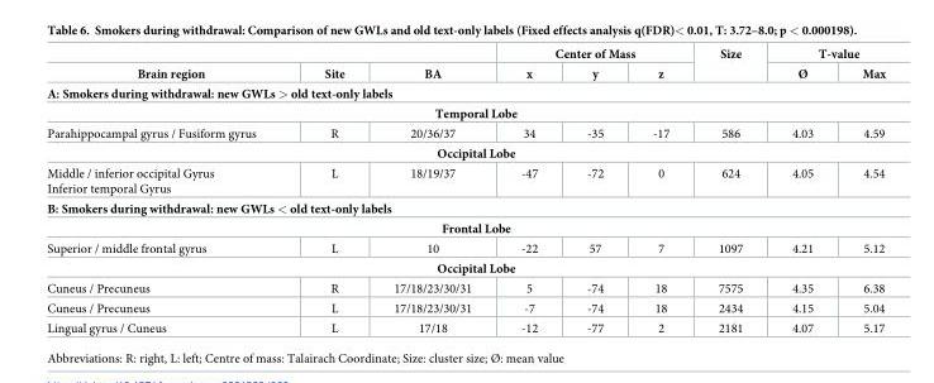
<table><thead><tr><td rowspan="2">Brain region</td><td rowspan="2">Site</td><td rowspan="2">BA</td><td colspan="3">Center of Mass</td><td rowspan="2">Size</td><td colspan="2">T-value</td></tr><tr><td>x</td><td>y</td><td>z</td><td>Ø</td><td>Max</td></tr></thead><tbody><tr><td colspan="9">A: Smokers during withdrawal: new GWLs &gt; old text-only labels</td></tr><tr><td colspan="9">Temporal Lobe</td></tr><tr><td>Parahippocampal gyrus / Fusiform gyrus</td><td>R</td><td>20/36/37</td><td>34</td><td>-35</td><td>-17</td><td>586</td><td>4.03</td><td>4.59</td></tr><tr><td colspan="9">Occipital Lobe</td></tr><tr><td>Middle / inferior occipital Gyrus Inferior temporal Gyrus</td><td>L</td><td>18/19/37</td><td>-47</td><td>-72</td><td>0</td><td>624</td><td>4.05</td><td>4.54</td></tr><tr><td colspan="9">B: Smokers during withdrawal: new GWLs &lt; old text-only labels</td></tr><tr><td colspan="9">Frontal Lobe</td></tr><tr><td>Superior / middle frontal gyrus</td><td>L</td><td>10</td><td>-22</td><td>57</td><td>7</td><td>1097</td><td>4.21</td><td>5.12</td></tr><tr><td colspan="9">Occipital Lobe</td></tr><tr><td>Cuneus / Precuneus</td><td>R</td><td>17/18/23/30/31</td><td>5</td><td>-74</td><td>18</td><td>7575</td><td>4.35</td><td>6.38</td></tr><tr><td>Cuneus / Precuneus</td><td>L</td><td>17/18/23/30/31</td><td>-7</td><td>-74</td><td>18</td><td>2434</td><td>4.15</td><td>5.04</td></tr><tr><td>Lingual gyrus / Cuneus</td><td>L</td><td>17/18</td><td>-12</td><td>-77</td><td>2</td><td>2181</td><td>4.07</td><td>5.17</td></tr></tbody></table>